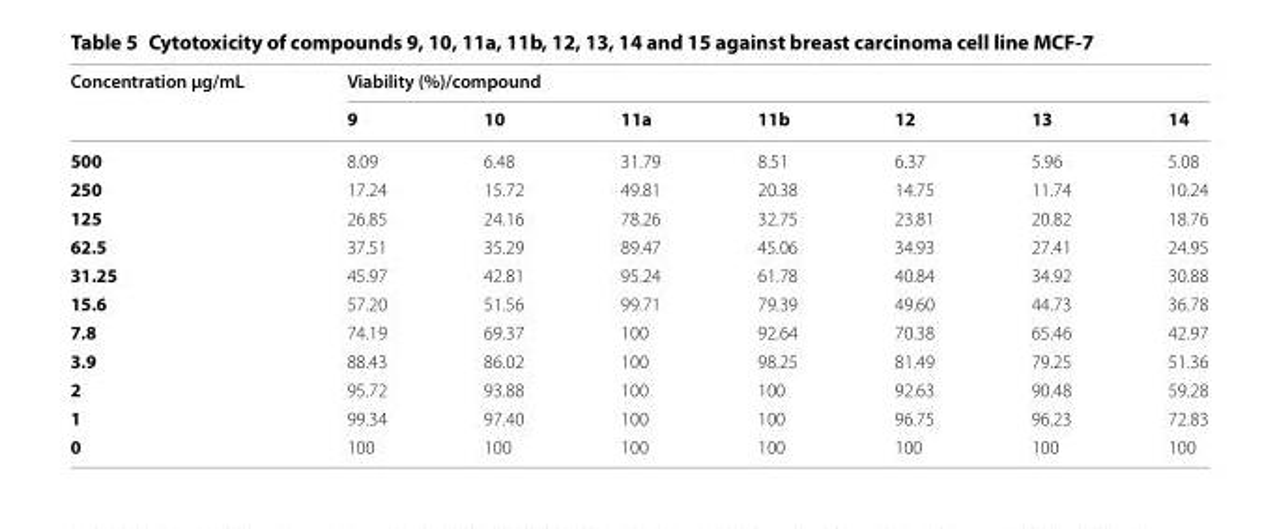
<table><thead><tr><td rowspan="2">Concentration µg/mL</td><td colspan="7">Viability (%)/compound</td></tr><tr><td>9</td><td>10</td><td>11a</td><td>11b</td><td>12</td><td>13</td><td>14</td></tr></thead><tbody><tr><td>500</td><td>8.09</td><td>6.48</td><td>31.79</td><td>8.51</td><td>6.37</td><td>5.96</td><td>5.08</td></tr><tr><td>250</td><td>17.24</td><td>15.72</td><td>49.81</td><td>20.38</td><td>14.75</td><td>11.74</td><td>10.24</td></tr><tr><td>125</td><td>26.85</td><td>24.16</td><td>78.26</td><td>32.75</td><td>23.81</td><td>20.82</td><td>18.76</td></tr><tr><td>62.5</td><td>37.51</td><td>35.29</td><td>89.47</td><td>45.06</td><td>34.93</td><td>27.41</td><td>24.95</td></tr><tr><td>31.25</td><td>45.97</td><td>42.81</td><td>95.24</td><td>61.78</td><td>40.84</td><td>34.92</td><td>30.88</td></tr><tr><td>15.6</td><td>57.20</td><td>51.56</td><td>99.71</td><td>79.39</td><td>49.60</td><td>44.73</td><td>36.78</td></tr><tr><td>7.8</td><td>74.19</td><td>69.37</td><td>100</td><td>92.64</td><td>70.38</td><td>65.46</td><td>42.97</td></tr><tr><td>3.9</td><td>88.43</td><td>86.02</td><td>100</td><td>98.25</td><td>81.49</td><td>79.25</td><td>51.36</td></tr><tr><td>2</td><td>95.72</td><td>93.88</td><td>100</td><td>100</td><td>92.63</td><td>90.48</td><td>59.28</td></tr><tr><td>1</td><td>99.34</td><td>97.40</td><td>100</td><td>100</td><td>96.75</td><td>96.23</td><td>72.83</td></tr><tr><td>0</td><td>100</td><td>100</td><td>100</td><td>100</td><td>100</td><td>100</td><td>100</td></tr></tbody></table>